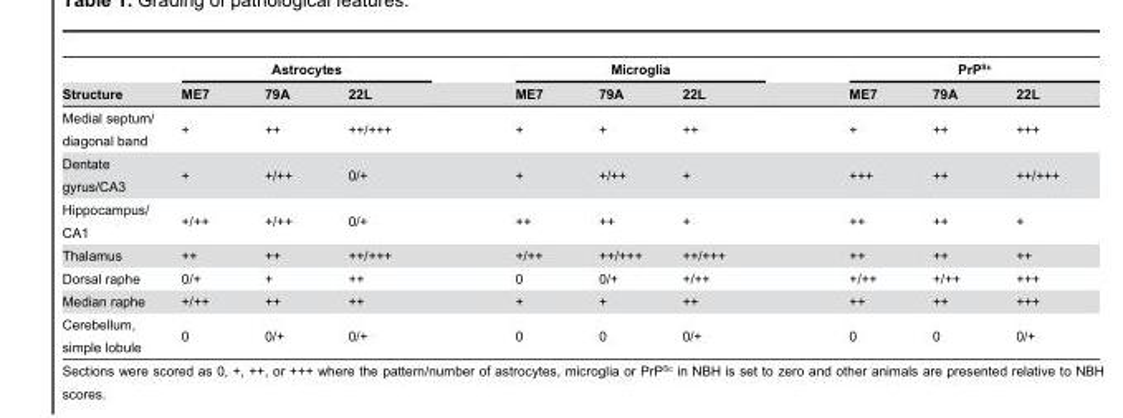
<table><thead><tr><td rowspan="2">Structure</td><td colspan="3">Astrocytes</td><td colspan="3">Microglia</td><td colspan="3">PrP<sup>Sc</sup></td></tr><tr><td>ME7</td><td>79A</td><td>22L</td><td>ME7</td><td>79A</td><td>22L</td><td>ME7</td><td>79A</td><td>22L</td></tr></thead><tbody><tr><td>Medial septum/ diagonal band</td><td>+</td><td>++</td><td>++/+++</td><td>+</td><td>+</td><td>++</td><td>+</td><td>++</td><td>+++</td></tr><tr><td>Dentate gyrus/CA3</td><td>+</td><td>+/++</td><td>0/+</td><td>+</td><td>+/++</td><td>+</td><td>+++</td><td>++</td><td>++/+++</td></tr><tr><td>Hippocampus/ CA1</td><td>+/++</td><td>+/++</td><td>0/+</td><td>++</td><td>++</td><td>+</td><td>++</td><td>++</td><td>+</td></tr><tr><td>Thalamus</td><td>++</td><td>++</td><td>++/+++</td><td>+/++</td><td>++/+++</td><td>++/+++</td><td>++</td><td>++</td><td>++</td></tr><tr><td>Dorsal raphe</td><td>0/+</td><td>+</td><td>++</td><td>0</td><td>0/+</td><td>+/++</td><td>+/++</td><td>+/++</td><td>+++</td></tr><tr><td>Median raphe</td><td>+/++</td><td>++</td><td>++</td><td>+</td><td>+</td><td>++</td><td>++</td><td>++</td><td>+++</td></tr><tr><td>Cerebellum, simple lobule</td><td>0</td><td>0/+</td><td>0/+</td><td>0</td><td>0</td><td>0/+</td><td>0</td><td>0</td><td>0/+</td></tr></tbody></table>